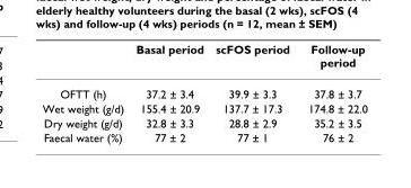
<table><thead><tr><td></td><td>Basal period</td><td>scFOS period</td><td>Follow-up period</td></tr></thead><tbody><tr><td>OFTT (h)</td><td>37.2 ± 3.4</td><td>39.9 ± 3.3</td><td>37.8 ± 3.7</td></tr><tr><td>Wet weight (g/d)</td><td>155.4 ± 20.9</td><td>137.7 ± 17.3</td><td>174.8 ± 22.0</td></tr><tr><td>Dry weight (g/d)</td><td>32.8 ± 3.3</td><td>28.8 ± 2.9</td><td>35.2 ± 3.5</td></tr><tr><td>Faecal water (%)</td><td>77 ± 2</td><td>77 ± 1</td><td>76 ± 2</td></tr></tbody></table>